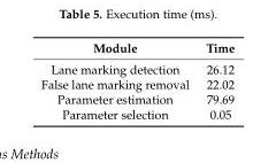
<table><thead><tr><td>Module</td><td>Time</td></tr></thead><tbody><tr><td>Lane marking detection</td><td>26.12</td></tr><tr><td>False lane marking removal</td><td>22.02</td></tr><tr><td>Parameter estimation</td><td>79.69</td></tr><tr><td>Parameter selection</td><td>0.05</td></tr></tbody></table>